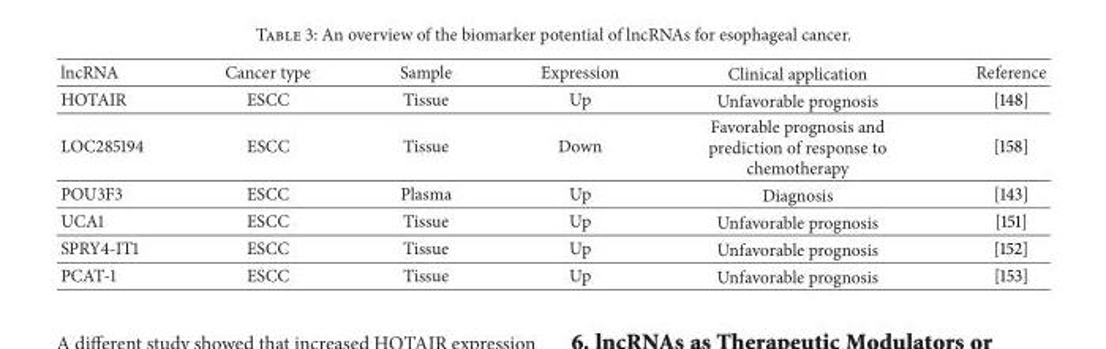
<table><thead><tr><td>lncRNA</td><td>Cancer type</td><td>Sample</td><td>Expression</td><td>Clinical application</td><td>Reference</td></tr></thead><tbody><tr><td>HOTAIR</td><td>ESCC</td><td>Tissue</td><td>Up</td><td>Unfavorable prognosis</td><td>[148]</td></tr><tr><td>LOC285194</td><td>ESCC</td><td>Tissue</td><td>Down</td><td>Favorable prognosis and prediction of response to chemotherapy</td><td>[158]</td></tr><tr><td>POU3F3</td><td>ESCC</td><td>Plasma</td><td>Up</td><td>Diagnosis</td><td>[143]</td></tr><tr><td>UCA1</td><td>ESCC</td><td>Tissue</td><td>Up</td><td>Unfavorable prognosis</td><td>[151]</td></tr><tr><td>SPRY4-IT1</td><td>ESCC</td><td>Tissue</td><td>Up</td><td>Unfavorable prognosis</td><td>[152]</td></tr><tr><td>PCAT-1</td><td>ESCC</td><td>Tissue</td><td>Up</td><td>Unfavorable prognosis</td><td>[153]</td></tr></tbody></table>